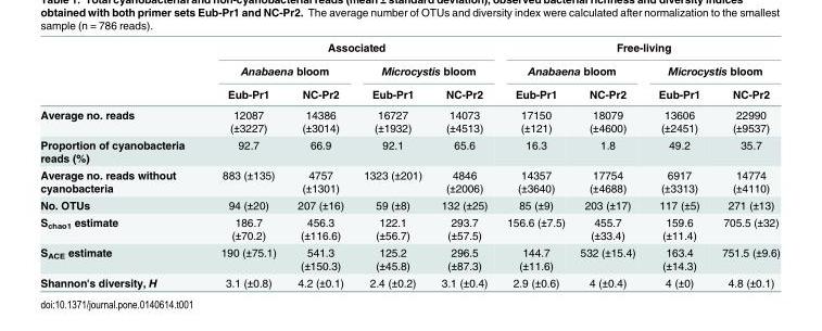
<table><thead><tr><td rowspan="3"></td><td colspan="4">Associated</td><td colspan="4">Free-living</td></tr><tr><td colspan="2">Anabaena bloom</td><td colspan="2">Microcystis bloom</td><td colspan="2">Anabaena bloom</td><td colspan="2">Microcystis bloom</td></tr><tr><td>Eub-Pr1</td><td>NC-Pr2</td><td>Eub-Pr1</td><td>NC-Pr2</td><td>Eub-Pr1</td><td>NC-Pr2</td><td>Eub-Pr1</td><td>NC-Pr2</td></tr></thead><tbody><tr><td>Average no. reads</td><td>12087 (±3227)</td><td>14386 (±3014)</td><td>16727 (±1932)</td><td>14073 (±4513)</td><td>17150 (±121)</td><td>18079 (±4600)</td><td>13606 (±2451)</td><td>22990 (±9537)</td></tr><tr><td>Proportion of cyanobacteria reads (%)</td><td>92.7</td><td>66.9</td><td>92.1</td><td>65.6</td><td>16.3</td><td>1.8</td><td>49.2</td><td>35.7</td></tr><tr><td>Average no. reads without cyanobacteria</td><td>883 (±135)</td><td>4757 (±1301)</td><td>1323 (±201)</td><td>4846 (±2006)</td><td>14357 (±3640)</td><td>17754 (±4688)</td><td>6917 (±3313)</td><td>14774 (±4110)</td></tr><tr><td>No. OTUs</td><td>94 (±20)</td><td>207 (±16)</td><td>59 (±8)</td><td>132 (±25)</td><td>85 (±9)</td><td>203 (±17)</td><td>117 (±5)</td><td>271 (±13)</td></tr><tr><td>S<sub>chao1</sub> estimate</td><td>186.7 (±70.2)</td><td>456.3 (±116.6)</td><td>122.1 (±56.7)</td><td>293.7 (±57.5)</td><td>156.6 (±7.5)</td><td>455.7 (±33.4)</td><td>159.6 (±11.4)</td><td>705.5 (±32)</td></tr><tr><td>S<sub>ACE</sub> estimate</td><td>190 (±75.1)</td><td>541.3 (±150.3)</td><td>125.2 (±45.8)</td><td>296.5 (±87.3)</td><td>144.7 (±11.6)</td><td>532 (±15.4)</td><td>163.4 (±14.3)</td><td>751.5 (±9.6)</td></tr><tr><td>Shannon&#x27;s diversity, H</td><td>3.1 (±0.8)</td><td>4.2 (±0.1)</td><td>2.4 (±0.2)</td><td>3.1 (±0.4)</td><td>2.9 (±0.6)</td><td>4 (±0.4)</td><td>4 (±0)</td><td>4.8 (±0.1)</td></tr></tbody></table>